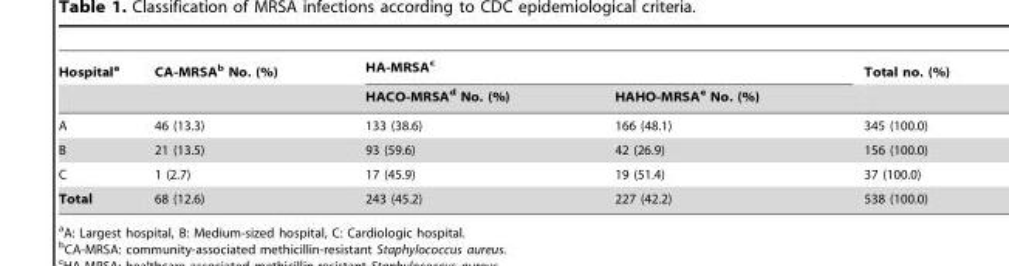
<table><thead><tr><td rowspan="2">Hospital<sup>a</sup></td><td rowspan="2">CA-MRSA<sup>b</sup> No. (%)</td><td colspan="2">HA-MRSA<sup>c</sup></td><td rowspan="2">Total no. (%)</td></tr><tr><td>HACO-MRSA<sup>d</sup> No. (%)</td><td>HAHO-MRSA<sup>e</sup> No. (%)</td></tr></thead><tbody><tr><td>A</td><td>46 (13.3)</td><td>133 (38.6)</td><td>166 (48.1)</td><td>345 (100.0)</td></tr><tr><td>B</td><td>21 (13.5)</td><td>93 (59.6)</td><td>42 (26.9)</td><td>156 (100.0)</td></tr><tr><td>C</td><td>1 (2.7)</td><td>17 (45.9)</td><td>19 (51.4)</td><td>37 (100.0)</td></tr><tr><td>Total</td><td>68 (12.6)</td><td>243 (45.2)</td><td>227 (42.2)</td><td>538 (100.0)</td></tr></tbody></table>